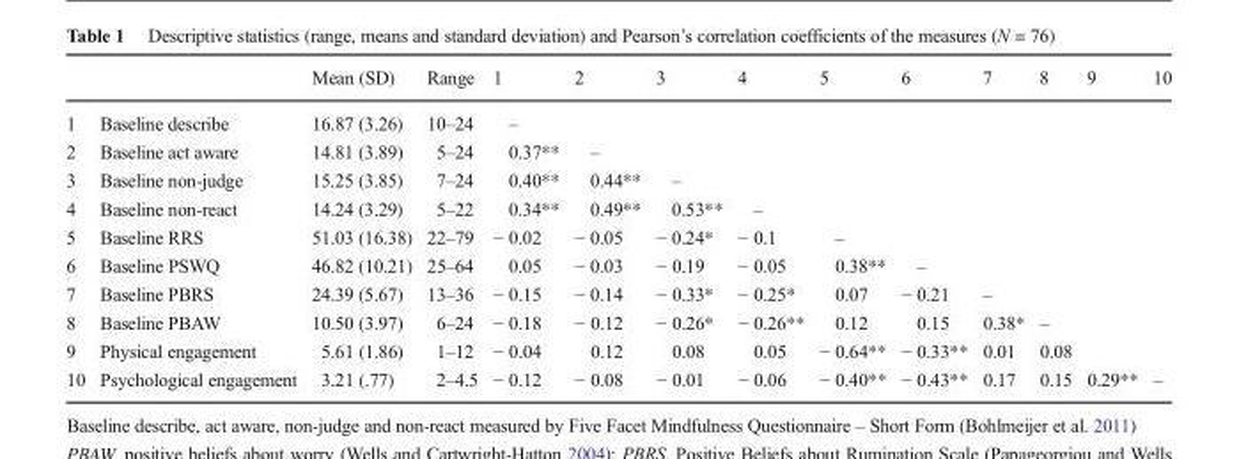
<table><thead><tr><td></td><td></td><td>Mean (SD)</td><td>Range</td><td>1</td><td>2</td><td>3</td><td>4</td><td>5</td><td>6</td><td>7</td><td>8</td><td>9</td><td>10</td></tr></thead><tbody><tr><td>1</td><td>Baseline describe</td><td>16.87 (3.26)</td><td>10–24</td><td>–</td><td></td><td></td><td></td><td></td><td></td><td></td><td></td><td></td><td></td></tr><tr><td>2</td><td>Baseline act aware</td><td>14.81 (3.89)</td><td>5–24</td><td>0.37**</td><td>–</td><td></td><td></td><td></td><td></td><td></td><td></td><td></td><td></td></tr><tr><td>3</td><td>Baseline non-judge</td><td>15.25 (3.85)</td><td>7–24</td><td>0.40**</td><td>0.44**</td><td>–</td><td></td><td></td><td></td><td></td><td></td><td></td><td></td></tr><tr><td>4</td><td>Baseline non-react</td><td>14.24 (3.29)</td><td>5–22</td><td>0.34**</td><td>0.49**</td><td>0.53**</td><td>–</td><td></td><td></td><td></td><td></td><td></td><td></td></tr><tr><td>5</td><td>Baseline RRS</td><td>51.03 (16.38)</td><td>22–79</td><td>− 0.02</td><td>− 0.05</td><td>− 0.24*</td><td>− 0.1</td><td>–</td><td></td><td></td><td></td><td></td><td></td></tr><tr><td>6</td><td>Baseline PSWQ</td><td>46.82 (10.21)</td><td>25–64</td><td>0.05</td><td>− 0.03</td><td>− 0.19</td><td>− 0.05</td><td>0.38**</td><td>–</td><td></td><td></td><td></td><td></td></tr><tr><td>7</td><td>Baseline PBRS</td><td>24.39 (5.67)</td><td>13–36</td><td>− 0.15</td><td>− 0.14</td><td>− 0.33*</td><td>− 0.25*</td><td>0.07</td><td>− 0.21</td><td>–</td><td></td><td></td><td></td></tr><tr><td>8</td><td>Baseline PBAW</td><td>10.50 (3.97)</td><td>6–24</td><td>− 0.18</td><td>− 0.12</td><td>− 0.26*</td><td>− 0.26**</td><td>0.12</td><td>0.15</td><td>0.38*</td><td>–</td><td></td><td></td></tr><tr><td>9</td><td>Physical engagement</td><td>5.61 (1.86)</td><td>1–12</td><td>− 0.04</td><td>0.12</td><td>0.08</td><td>0.05</td><td>− 0.64**</td><td>− 0.33**</td><td>0.01</td><td>0.08</td><td></td><td></td></tr><tr><td>10</td><td>Psychological engagement</td><td>3.21 (.77)</td><td>2–4.5</td><td>− 0.12</td><td>− 0.08</td><td>− 0.01</td><td>− 0.06</td><td>− 0.40**</td><td>− 0.43**</td><td>0.17</td><td>0.15</td><td>0.29**</td><td>–</td></tr></tbody></table>